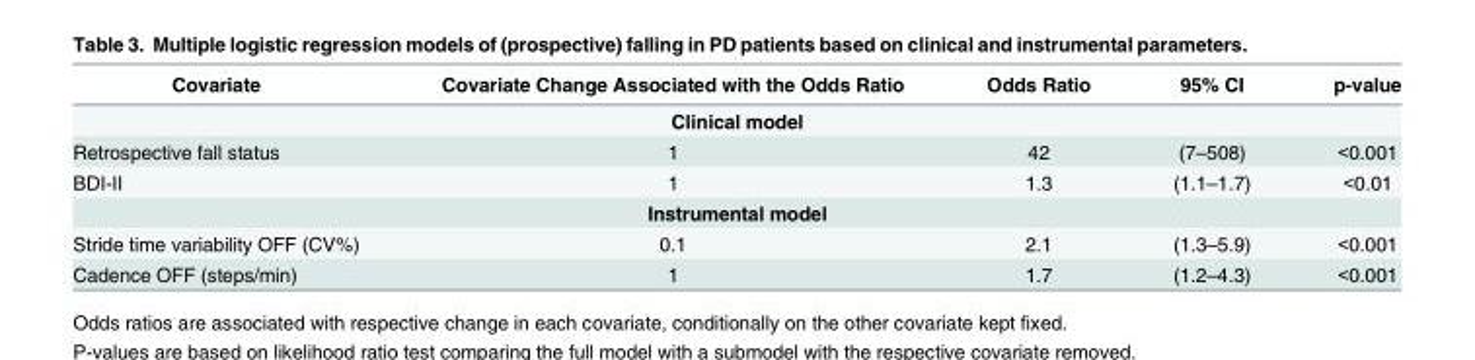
<table><thead><tr><td>Covariate</td><td>Covariate Change Associated with the Odds Ratio</td><td>Odds Ratio</td><td>95% CI</td><td>p-value</td></tr></thead><tbody><tr><td colspan="5">Clinical model</td></tr><tr><td>Retrospective fall status</td><td>1</td><td>42</td><td>(7–508)</td><td>&lt;0.001</td></tr><tr><td>BDI-II</td><td>1</td><td>1.3</td><td>(1.1–1.7)</td><td>&lt;0.01</td></tr><tr><td colspan="5">Instrumental model</td></tr><tr><td>Stride time variability OFF (CV%)</td><td>0.1</td><td>2.1</td><td>(1.3–5.9)</td><td>&lt;0.001</td></tr><tr><td>Cadence OFF (steps/min)</td><td>1</td><td>1.7</td><td>(1.2–4.3)</td><td>&lt;0.001</td></tr></tbody></table>